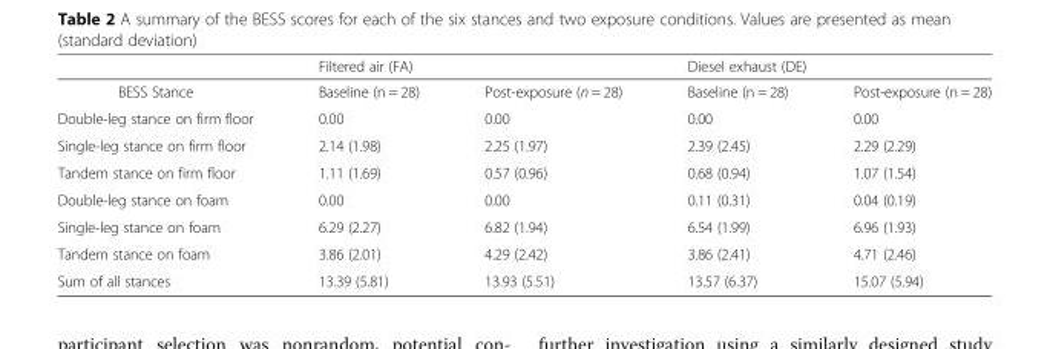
<table><thead><tr><td rowspan="2">BESS Stance</td><td colspan="2">Filtered air (FA)</td><td colspan="2">Diesel exhaust (DE)</td></tr><tr><td>Baseline (n = 28)</td><td>Post-exposure (n = 28)</td><td>Baseline (n = 28)</td><td>Post-exposure (n = 28)</td></tr></thead><tbody><tr><td>Double-leg stance on firm floor</td><td>0.00</td><td>0.00</td><td>0.00</td><td>0.00</td></tr><tr><td>Single-leg stance on firm floor</td><td>2.14 (1.98)</td><td>2.25 (1.97)</td><td>2.39 (2.45)</td><td>2.29 (2.29)</td></tr><tr><td>Tandem stance on firm floor</td><td>1.11 (1.69)</td><td>0.57 (0.96)</td><td>0.68 (0.94)</td><td>1.07 (1.54)</td></tr><tr><td>Double-leg stance on foam</td><td>0.00</td><td>0.00</td><td>0.11 (0.31)</td><td>0.04 (0.19)</td></tr><tr><td>Single-leg stance on foam</td><td>6.29 (2.27)</td><td>6.82 (1.94)</td><td>6.54 (1.99)</td><td>6.96 (1.93)</td></tr><tr><td>Tandem stance on foam</td><td>3.86 (2.01)</td><td>4.29 (2.42)</td><td>3.86 (2.41)</td><td>4.71 (2.46)</td></tr><tr><td>Sum of all stances</td><td>13.39 (5.81)</td><td>13.93 (5.51)</td><td>13.57 (6.37)</td><td>15.07 (5.94)</td></tr></tbody></table>